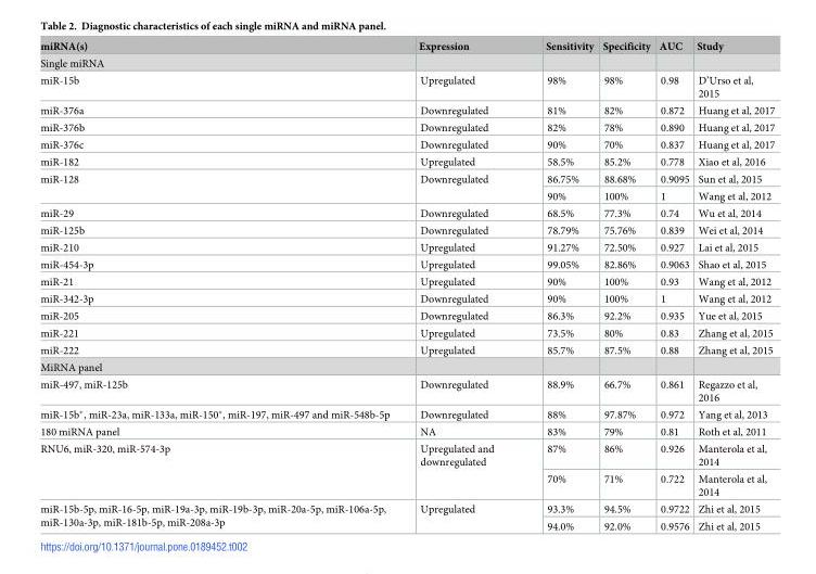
<table><thead><tr><td>miRNA(s)</td><td>Expression</td><td>Sensitivity</td><td>Specificity</td><td>AUC</td><td>Study</td></tr></thead><tbody><tr><td colspan="6">Single miRNA</td></tr><tr><td>miR-15b</td><td>Upregulated</td><td>98%</td><td>98%</td><td>0.98</td><td>D’Urso et al, 2015</td></tr><tr><td>miR-376a</td><td>Downregulated</td><td>81%</td><td>82%</td><td>0.872</td><td>Huang et al, 2017</td></tr><tr><td>miR-376b</td><td>Downregulated</td><td>82%</td><td>78%</td><td>0.890</td><td>Huang et al, 2017</td></tr><tr><td>miR-376c</td><td>Downregulated</td><td>90%</td><td>70%</td><td>0.837</td><td>Huang et al, 2017</td></tr><tr><td>miR-182</td><td>Upregulated</td><td>58.5%</td><td>85.2%</td><td>0.778</td><td>Xiao et al, 2016</td></tr><tr><td rowspan="2">miR-128</td><td rowspan="2">Downregulated</td><td>86.75%</td><td>88.68%</td><td>0.9095</td><td>Sun et al, 2015</td></tr><tr><td>90%</td><td>100%</td><td>1</td><td>Wang et al, 2012</td></tr><tr><td>miR-29</td><td>Downregulated</td><td>68.5%</td><td>77.3%</td><td>0.74</td><td>Wu et al, 2014</td></tr><tr><td>miR-125b</td><td>Downregulated</td><td>78.79%</td><td>75.76%</td><td>0.839</td><td>Wei et al, 2014</td></tr><tr><td>miR-210</td><td>Upregulated</td><td>91.27%</td><td>72.50%</td><td>0.927</td><td>Lai et al, 2015</td></tr><tr><td>miR-454-3p</td><td>Upregulated</td><td>99.05%</td><td>82.86%</td><td>0.9063</td><td>Shao et al, 2015</td></tr><tr><td>miR-21</td><td>Upregulated</td><td>90%</td><td>100%</td><td>0.93</td><td>Wang et al, 2012</td></tr><tr><td>miR-342-3p</td><td>Downregulated</td><td>90%</td><td>100%</td><td>1</td><td>Wang et al, 2012</td></tr><tr><td>miR-205</td><td>Downregulated</td><td>86.3%</td><td>92.2%</td><td>0.935</td><td>Yue et al, 2015</td></tr><tr><td>miR-221</td><td>Upregulated</td><td>73.5%</td><td>80%</td><td>0.83</td><td>Zhang et al, 2015</td></tr><tr><td>miR-222</td><td>Upregulated</td><td>85.7%</td><td>87.5%</td><td>0.88</td><td>Zhang et al, 2015</td></tr><tr><td colspan="6">MiRNA panel</td></tr><tr><td>miR-497, miR-125b</td><td>Downregulated</td><td>88.9%</td><td>66.7%</td><td>0.861</td><td>Regazzo et al, 2016</td></tr><tr><td>miR-15b*, miR-23a, miR-133a, miR-150*, miR-197, miR-497 and miR-548b-5p</td><td>Downregulated</td><td>88%</td><td>97.87%</td><td>0.972</td><td>Yang et al, 2013</td></tr><tr><td>180 miRNA panel</td><td>NA</td><td>83%</td><td>79%</td><td>0.81</td><td>Roth et al, 2011</td></tr><tr><td rowspan="2">RNU6, miR-320, miR-574-3p</td><td rowspan="2">Upregulated and downregulated</td><td>87%</td><td>86%</td><td>0.926</td><td>Manterola et al, 2014</td></tr><tr><td>70%</td><td>71%</td><td>0.722</td><td>Manterola et al, 2014</td></tr><tr><td rowspan="2">miR-15b-5p, miR-16-5p, miR-19a-3p, miR-19b-3p, miR-20a-5p, miR-106a-5p, miR-130a-3p, miR-181b-5p, miR-208a-3p</td><td rowspan="2">Upregulated</td><td>93.3%</td><td>94.5%</td><td>0.9722</td><td>Zhi et al, 2015</td></tr><tr><td>94.0%</td><td>92.0%</td><td>0.9576</td><td>Zhi et al, 2015</td></tr></tbody></table>